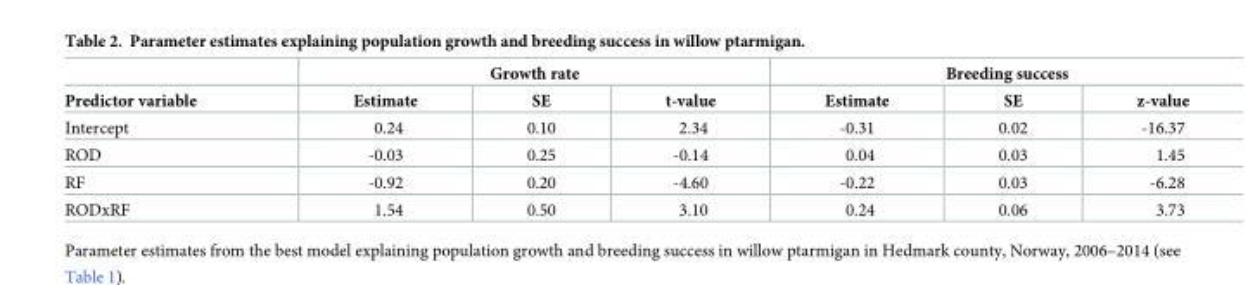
<table><thead><tr><td rowspan="2">Predictor variable</td><td colspan="3">Growth rate</td><td colspan="3">Breeding success</td></tr><tr><td>Estimate</td><td>SE</td><td>t-value</td><td>Estimate</td><td>SE</td><td>z-value</td></tr></thead><tbody><tr><td>Intercept</td><td>0.24</td><td>0.10</td><td>2.34</td><td>-0.31</td><td>0.02</td><td>-16.37</td></tr><tr><td>ROD</td><td>-0.03</td><td>0.25</td><td>-0.14</td><td>0.04</td><td>0.03</td><td>1.45</td></tr><tr><td>RF</td><td>-0.92</td><td>0.20</td><td>-4.60</td><td>-0.22</td><td>0.03</td><td>-6.28</td></tr><tr><td>RODxRF</td><td>1.54</td><td>0.50</td><td>3.10</td><td>0.24</td><td>0.06</td><td>3.73</td></tr></tbody></table>